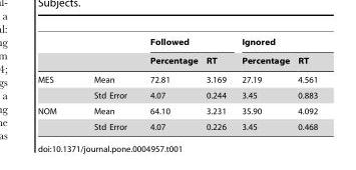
<table><thead><tr><td rowspan="2"></td><td rowspan="2"></td><td colspan="2">Followed</td><td colspan="2">Ignored</td></tr><tr><td>Percentage</td><td>RT</td><td>Percentage</td><td>RT</td></tr></thead><tbody><tr><td rowspan="2">MES</td><td>Mean</td><td>72.81</td><td>3.169</td><td>27.19</td><td>4.561</td></tr><tr><td>Std Error</td><td>4.07</td><td>0.244</td><td>3.45</td><td>0.883</td></tr><tr><td rowspan="2">NOM</td><td>Mean</td><td>64.10</td><td>3.231</td><td>35.90</td><td>4.092</td></tr><tr><td>Std Error</td><td>4.07</td><td>0.226</td><td>3.45</td><td>0.468</td></tr></tbody></table>